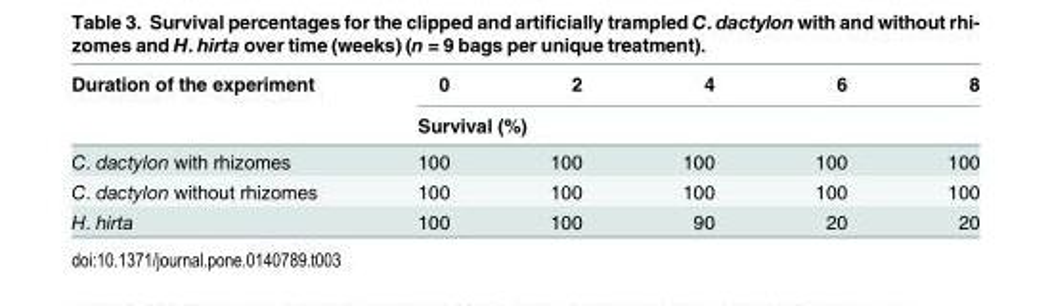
<table><thead><tr><td rowspan="2">Duration of the experiment</td><td>0</td><td>2</td><td>4</td><td>6</td><td>8</td></tr><tr><td colspan="5">Survival (%)</td></tr></thead><tbody><tr><td>C. dactylon with rhizomes</td><td>100</td><td>100</td><td>100</td><td>100</td><td>100</td></tr><tr><td>C. dactylon without rhizomes</td><td>100</td><td>100</td><td>100</td><td>100</td><td>100</td></tr><tr><td>H. hirta</td><td>100</td><td>100</td><td>90</td><td>20</td><td>20</td></tr></tbody></table>